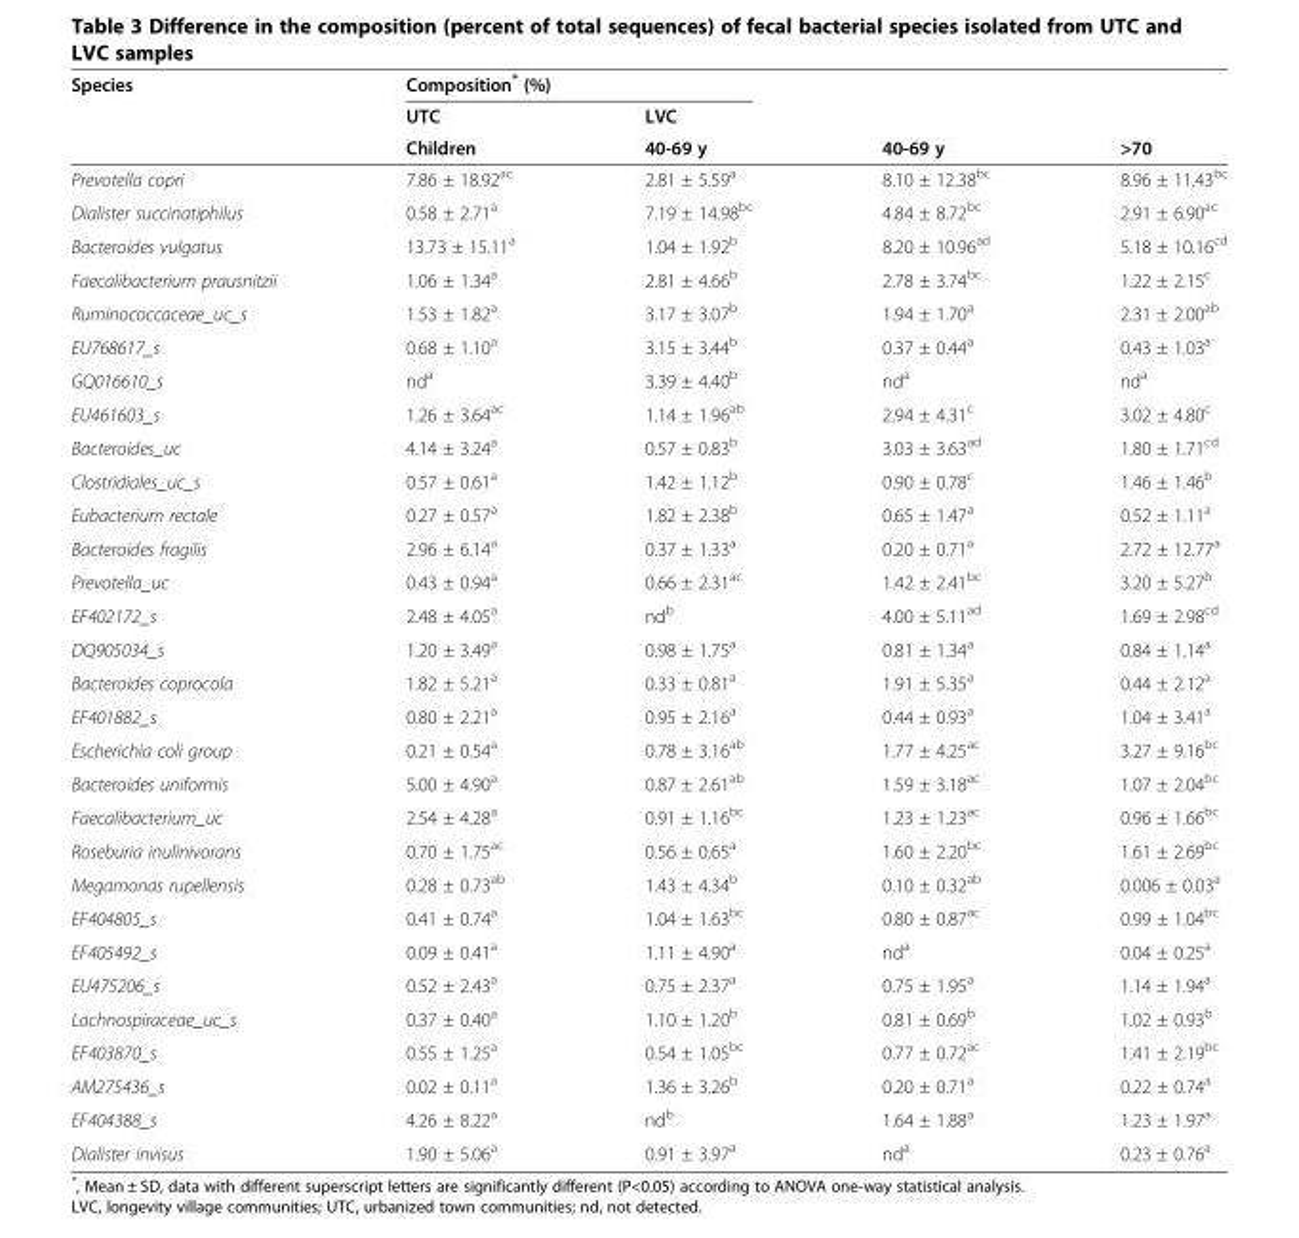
<table><thead><tr><td rowspan="3">Species</td><td colspan="2">Composition* (%)</td><td rowspan="3">40-69 y</td><td rowspan="3">&gt;70</td></tr><tr><td rowspan="2">UTC Children</td><td rowspan="2">LVC 40-69 y</td></tr><tr></tr></thead><tbody><tr><td>Prevotella copri</td><td>7.86 ± 18.92<sup>ac</sup></td><td>2.81 ± 5.59<sup>a</sup></td><td>8.10 ± 12.38<sup>bc</sup></td><td>8.96 ± 11.43<sup>bc</sup></td></tr><tr><td>Dialister succinatiphilus</td><td>0.58 ± 2.71<sup>a</sup></td><td>7.19 ± 14.98<sup>bc</sup></td><td>4.84 ± 8.72<sup>bc</sup></td><td>2.91 ± 6.90<sup>ac</sup></td></tr><tr><td>Bacteroides vulgatus</td><td>13.73 ± 15.11<sup>a</sup></td><td>1.04 ± 1.92<sup>b</sup></td><td>8.20 ± 10.96<sup>ad</sup></td><td>5.18 ± 10.16<sup>cd</sup></td></tr><tr><td>Faecalibacterium prausnitzii</td><td>1.06 ± 1.34<sup>a</sup></td><td>2.81 ± 4.66<sup>b</sup></td><td>2.78 ± 3.74<sup>bc</sup></td><td>1.22 ± 2.15<sup>c</sup></td></tr><tr><td>Ruminococcaceae_uc_s</td><td>1.53 ± 1.82<sup>a</sup></td><td>3.17 ± 3.07<sup>b</sup></td><td>1.94 ± 1.70<sup>a</sup></td><td>2.31 ± 2.00<sup>ab</sup></td></tr><tr><td>EU768617_s</td><td>0.68 ± 1.10<sup>a</sup></td><td>3.15 ± 3.44<sup>b</sup></td><td>0.37 ± 0.44<sup>a</sup></td><td>0.43 ± 1.03<sup>a</sup></td></tr><tr><td>GQ016610_s</td><td>nd<sup>a</sup></td><td>3.39 ± 4.40<sup>b</sup></td><td>nd<sup>a</sup></td><td>nd<sup>a</sup></td></tr><tr><td>EU461603_s</td><td>1.26 ± 3.64<sup>ac</sup></td><td>1.14 ± 1.96<sup>ab</sup></td><td>2.94 ± 4.31<sup>c</sup></td><td>3.02 ± 4.80<sup>c</sup></td></tr><tr><td>Bacteroides_uc</td><td>4.14 ± 3.24<sup>a</sup></td><td>0.57 ± 0.83<sup>b</sup></td><td>3.03 ± 3.63<sup>ad</sup></td><td>1.80 ± 1.71<sup>cd</sup></td></tr><tr><td>Clostridiales_uc_s</td><td>0.57 ± 0.61<sup>a</sup></td><td>1.42 ± 1.12<sup>b</sup></td><td>0.90 ± 0.78<sup>c</sup></td><td>1.46 ± 1.46<sup>b</sup></td></tr><tr><td>Eubacterium rectale</td><td>0.27 ± 0.57<sup>a</sup></td><td>1.82 ± 2.38<sup>b</sup></td><td>0.65 ± 1.47<sup>a</sup></td><td>0.52 ± 1.11<sup>a</sup></td></tr><tr><td>Bacteroides fragilis</td><td>2.96 ± 6.14<sup>a</sup></td><td>0.37 ± 1.33<sup>a</sup></td><td>0.20 ± 0.71<sup>a</sup></td><td>2.72 ± 12.77<sup>a</sup></td></tr><tr><td>Prevotella_uc</td><td>0.43 ± 0.94<sup>a</sup></td><td>0.66 ± 2.31<sup>ac</sup></td><td>1.42 ± 2.41<sup>bc</sup></td><td>3.20 ± 5.27<sup>b</sup></td></tr><tr><td>EF402172_s</td><td>2.48 ± 4.05<sup>a</sup></td><td>nd<sup>b</sup></td><td>4.00 ± 5.11<sup>ad</sup></td><td>1.69 ± 2.98<sup>cd</sup></td></tr><tr><td>DQ905034_s</td><td>1.20 ± 3.49<sup>a</sup></td><td>0.98 ± 1.75<sup>a</sup></td><td>0.81 ± 1.34<sup>a</sup></td><td>0.84 ± 1.14<sup>a</sup></td></tr><tr><td>Bacteroides coprocola</td><td>1.82 ± 5.21<sup>a</sup></td><td>0.33 ± 0.81<sup>a</sup></td><td>1.91 ± 5.35<sup>a</sup></td><td>0.44 ± 2.12<sup>a</sup></td></tr><tr><td>EF401882_s</td><td>0.80 ± 2.21<sup>a</sup></td><td>0.95 ± 2.16<sup>a</sup></td><td>0.44 ± 0.93<sup>a</sup></td><td>1.04 ± 3.41<sup>a</sup></td></tr><tr><td>Escherichia coli group</td><td>0.21 ± 0.54<sup>a</sup></td><td>0.78 ± 3.16<sup>ab</sup></td><td>1.77 ± 4.25<sup>ac</sup></td><td>3.27 ± 9.16<sup>bc</sup></td></tr><tr><td>Bacteroides uniformis</td><td>5.00 ± 4.90<sup>a</sup></td><td>0.87 ± 2.61<sup>ab</sup></td><td>1.59 ± 3.18<sup>ac</sup></td><td>1.07 ± 2.04<sup>bc</sup></td></tr><tr><td>Faecalibacterium_uc</td><td>2.54 ± 4.28<sup>a</sup></td><td>0.91 ± 1.16<sup>bc</sup></td><td>1.23 ± 1.23<sup>ac</sup></td><td>0.96 ± 1.66<sup>bc</sup></td></tr><tr><td>Roseburia inulinivorans</td><td>0.70 ± 1.75<sup>ac</sup></td><td>0.56 ± 0.65<sup>a</sup></td><td>1.60 ± 2.20<sup>bc</sup></td><td>1.61 ± 2.69<sup>bc</sup></td></tr><tr><td>Megamonas rupellensis</td><td>0.28 ± 0.73<sup>ab</sup></td><td>1.43 ± 4.34<sup>b</sup></td><td>0.10 ± 0.32<sup>ab</sup></td><td>0.006 ± 0.03<sup>a</sup></td></tr><tr><td>EF404805_s</td><td>0.41 ± 0.74<sup>a</sup></td><td>1.04 ± 1.63<sup>bc</sup></td><td>0.80 ± 0.87<sup>ac</sup></td><td>0.99 ± 1.04<sup>bc</sup></td></tr><tr><td>EF405492_s</td><td>0.09 ± 0.41<sup>a</sup></td><td>1.11 ± 4.90<sup>a</sup></td><td>nd<sup>a</sup></td><td>0.04 ± 0.25<sup>a</sup></td></tr><tr><td>EU475206_s</td><td>0.52 ± 2.43<sup>a</sup></td><td>0.75 ± 2.37<sup>a</sup></td><td>0.75 ± 1.95<sup>a</sup></td><td>1.14 ± 1.94<sup>a</sup></td></tr><tr><td>Lachnospiraceae_uc_s</td><td>0.37 ± 0.40<sup>a</sup></td><td>1.10 ± 1.20<sup>b</sup></td><td>0.81 ± 0.69<sup>b</sup></td><td>1.02 ± 0.93<sup>b</sup></td></tr><tr><td>EF403870_s</td><td>0.55 ± 1.25<sup>a</sup></td><td>0.54 ± 1.05<sup>bc</sup></td><td>0.77 ± 0.72<sup>ac</sup></td><td>1.41 ± 2.19<sup>bc</sup></td></tr><tr><td>AM275436_s</td><td>0.02 ± 0.11<sup>a</sup></td><td>1.36 ± 3.26<sup>b</sup></td><td>0.20 ± 0.71<sup>a</sup></td><td>0.22 ± 0.74<sup>a</sup></td></tr><tr><td>EF404388_s</td><td>4.26 ± 8.22<sup>a</sup></td><td>nd<sup>b</sup></td><td>1.64 ± 1.88<sup>a</sup></td><td>1.23 ± 1.97<sup>a</sup></td></tr><tr><td>Dialister invisus</td><td>1.90 ± 5.06<sup>a</sup></td><td>0.91 ± 3.97<sup>a</sup></td><td>nd<sup>a</sup></td><td>0.23 ± 0.76<sup>a</sup></td></tr></tbody></table>